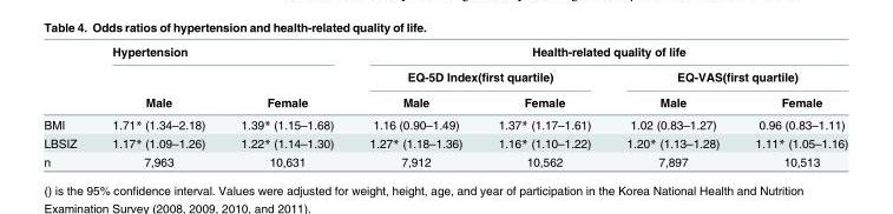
<table><thead><tr><td rowspan="3"></td><td colspan="2">Hypertension</td><td colspan="4">Health-related quality of life</td></tr><tr><td rowspan="2">Male</td><td rowspan="2">Female</td><td colspan="2">EQ-5D Index(first quartile)</td><td colspan="2">EQ-VAS(first quartile)</td></tr><tr><td>Male</td><td>Female</td><td>Male</td><td>Female</td></tr></thead><tbody><tr><td>BMI</td><td>1.71* (1.34–2.18)</td><td>1.39* (1.15–1.68)</td><td>1.16 (0.90–1.49)</td><td>1.37* (1.17–1.61)</td><td>1.02 (0.83–1.27)</td><td>0.96 (0.83–1.11)</td></tr><tr><td>LBSIZ</td><td>1.17* (1.09–1.26)</td><td>1.22* (1.14–1.30)</td><td>1.27* (1.18–1.36)</td><td>1.16* (1.10–1.22)</td><td>1.20* (1.13–1.28)</td><td>1.11* (1.05–1.16)</td></tr><tr><td>n</td><td>7,963</td><td>10,631</td><td>7,912</td><td>10,562</td><td>7,897</td><td>10,513</td></tr></tbody></table>